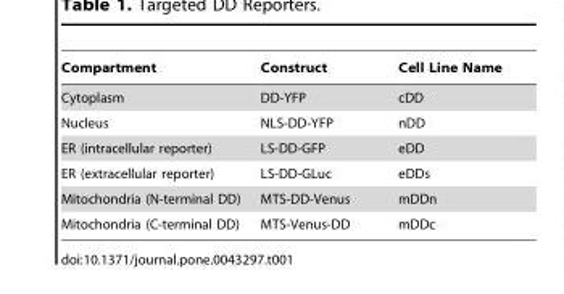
<table><thead><tr><td>Compartment</td><td>Construct</td><td>Cell Line Name</td></tr></thead><tbody><tr><td>Cytoplasm</td><td>DD-YFP</td><td>cDD</td></tr><tr><td>Nucleus</td><td>NLS-DD-YFP</td><td>nDD</td></tr><tr><td>ER (intracellular reporter)</td><td>LS-DD-GFP</td><td>eDD</td></tr><tr><td>ER (extracellular reporter)</td><td>LS-DD-GLuc</td><td>eDDs</td></tr><tr><td>Mitochondria (N-terminal DD)</td><td>MTS-DD-Venus</td><td>mDDn</td></tr><tr><td>Mitochondria (C-terminal DD)</td><td>MTS-Venus-DD</td><td>mDDc</td></tr></tbody></table>